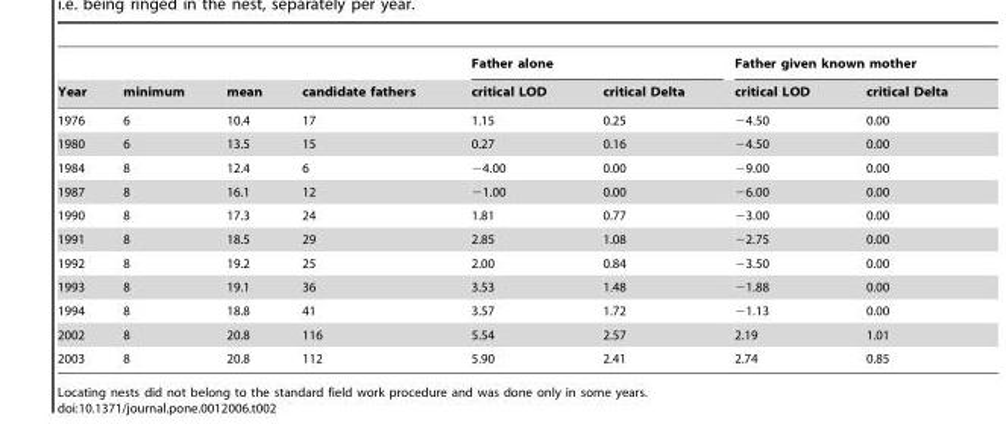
<table><thead><tr><td rowspan="2">Year</td><td rowspan="2">minimum</td><td rowspan="2">mean</td><td rowspan="2">candidate fathers</td><td colspan="2">Father alone</td><td colspan="2">Father given known mother</td></tr><tr><td>critical LOD</td><td>critical Delta</td><td>critical LOD</td><td>critical Delta</td></tr></thead><tbody><tr><td>1976</td><td>6</td><td>10.4</td><td>17</td><td>1.15</td><td>0.25</td><td>−4.50</td><td>0.00</td></tr><tr><td>1980</td><td>6</td><td>13.5</td><td>15</td><td>0.27</td><td>0.16</td><td>−4.50</td><td>0.00</td></tr><tr><td>1984</td><td>8</td><td>12.4</td><td>6</td><td>−4.00</td><td>0.00</td><td>−9.00</td><td>0.00</td></tr><tr><td>1987</td><td>8</td><td>16.1</td><td>12</td><td>−1.00</td><td>0.00</td><td>−6.00</td><td>0.00</td></tr><tr><td>1990</td><td>8</td><td>17.3</td><td>24</td><td>1.81</td><td>0.77</td><td>−3.00</td><td>0.00</td></tr><tr><td>1991</td><td>8</td><td>18.5</td><td>29</td><td>2.85</td><td>1.08</td><td>−2.75</td><td>0.00</td></tr><tr><td>1992</td><td>8</td><td>19.2</td><td>25</td><td>2.00</td><td>0.84</td><td>−3.50</td><td>0.00</td></tr><tr><td>1993</td><td>8</td><td>19.1</td><td>36</td><td>3.53</td><td>1.48</td><td>−1.88</td><td>0.00</td></tr><tr><td>1994</td><td>8</td><td>18.8</td><td>41</td><td>3.57</td><td>1.72</td><td>−1.13</td><td>0.00</td></tr><tr><td>2002</td><td>8</td><td>20.8</td><td>116</td><td>5.54</td><td>2.57</td><td>2.19</td><td>1.01</td></tr><tr><td>2003</td><td>8</td><td>20.8</td><td>112</td><td>5.90</td><td>2.41</td><td>2.74</td><td>0.85</td></tr></tbody></table>